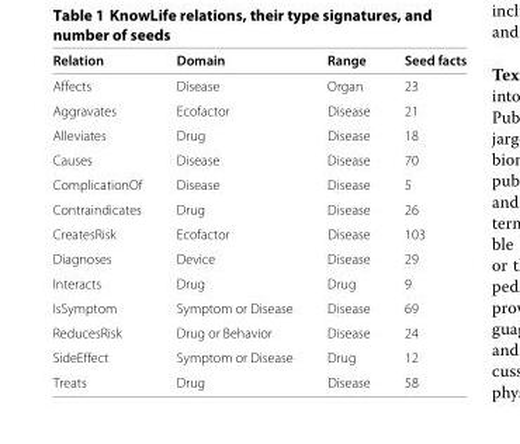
<table><thead><tr><td>Relation</td><td>Domain</td><td>Range</td><td>Seed facts</td></tr></thead><tbody><tr><td>Affects</td><td>Disease</td><td>Organ</td><td>23</td></tr><tr><td>Aggravates</td><td>Ecofactor</td><td>Disease</td><td>21</td></tr><tr><td>Alleviates</td><td>Drug</td><td>Disease</td><td>18</td></tr><tr><td>Causes</td><td>Disease</td><td>Disease</td><td>70</td></tr><tr><td>ComplicationOf</td><td>Disease</td><td>Disease</td><td>5</td></tr><tr><td>Contraindicates</td><td>Drug</td><td>Disease</td><td>26</td></tr><tr><td>CreatesRisk</td><td>Ecofactor</td><td>Disease</td><td>103</td></tr><tr><td>Diagnoses</td><td>Device</td><td>Disease</td><td>29</td></tr><tr><td>Interacts</td><td>Drug</td><td>Drug</td><td>9</td></tr><tr><td>IsSymptom</td><td>Symptom or Disease</td><td>Disease</td><td>69</td></tr><tr><td>ReducesRisk</td><td>Drug or Behavior</td><td>Disease</td><td>24</td></tr><tr><td>SideEffect</td><td>Symptom or Disease</td><td>Drug</td><td>12</td></tr><tr><td>Treats</td><td>Drug</td><td>Disease</td><td>58</td></tr></tbody></table>